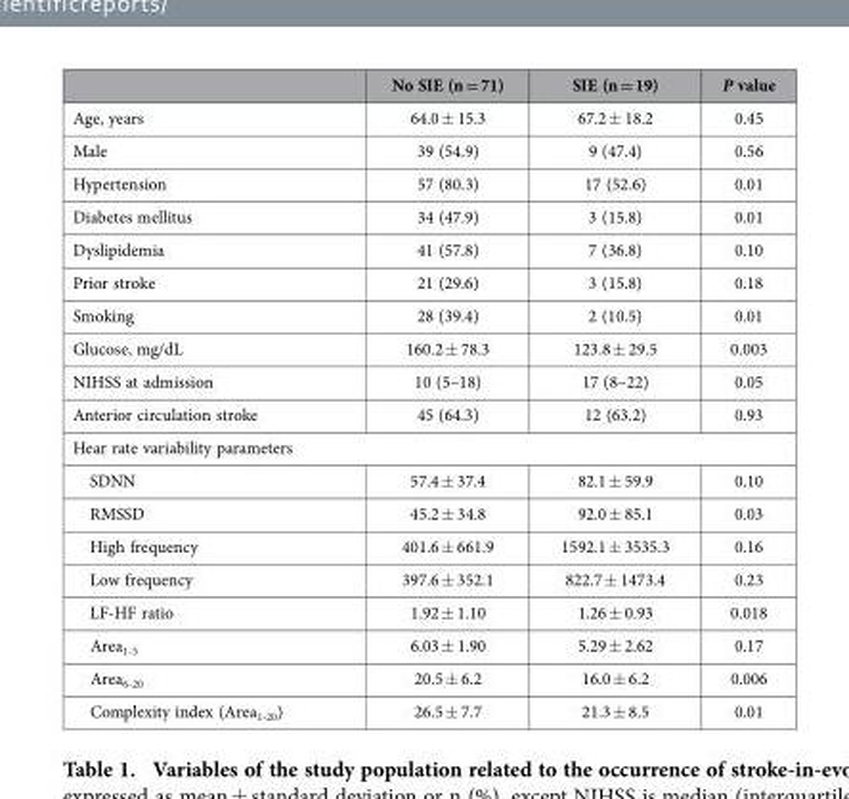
<table><thead><tr><td></td><td>No SIE (n = 71)</td><td>SIE (n = 19)</td><td>P value</td></tr></thead><tbody><tr><td>Age, years</td><td>64.0 ± 15.3</td><td>67.2 ± 18.2</td><td>0.45</td></tr><tr><td>Male</td><td>39 (54.9)</td><td>9 (47.4)</td><td>0.56</td></tr><tr><td>Hypertension</td><td>57 (80.3)</td><td>17 (52.6)</td><td>0.01</td></tr><tr><td>Diabetes mellitus</td><td>34 (47.9)</td><td>3 (15.8)</td><td>0.01</td></tr><tr><td>Dyslipidemia</td><td>41 (57.8)</td><td>7 (36.8)</td><td>0.10</td></tr><tr><td>Prior stroke</td><td>21 (29.6)</td><td>3 (15.8)</td><td>0.18</td></tr><tr><td>Smoking</td><td>28 (39.4)</td><td>2 (10.5)</td><td>0.01</td></tr><tr><td>Glucose, mg/dL</td><td>160.2 ± 78.3</td><td>123.8 ± 29.5</td><td>0.003</td></tr><tr><td>NIHSS at admission</td><td>10 (5–18)</td><td>17 (8–22)</td><td>0.05</td></tr><tr><td>Anterior circulation stroke</td><td>45 (64.3)</td><td>12 (63.2)</td><td>0.93</td></tr><tr><td colspan="4">Hear rate variability parameters</td></tr><tr><td>SDNN</td><td>57.4 ± 37.4</td><td>82.1 ± 59.9</td><td>0.10</td></tr><tr><td>RMSSD</td><td>45.2 ± 34.8</td><td>92.0 ± 85.1</td><td>0.03</td></tr><tr><td>High frequency</td><td>401.6 ± 661.9</td><td>1592.1 ± 3535.3</td><td>0.16</td></tr><tr><td>Low frequency</td><td>397.6 ± 352.1</td><td>822.7 ± 1473.4</td><td>0.23</td></tr><tr><td>LF-HF ratio</td><td>1.92 ± 1.10</td><td>1.26 ± 0.93</td><td>0.018</td></tr><tr><td>Area<sub>1-5</sub></td><td>6.03 ± 1.90</td><td>5.29 ± 2.62</td><td>0.17</td></tr><tr><td>Area<sub>6-20</sub></td><td>20.5 ± 6.2</td><td>16.0 ± 6.2</td><td>0.006</td></tr><tr><td>Complexity index (Area<sub>1-20</sub>)</td><td>26.5 ± 7.7</td><td>21.3 ± 8.5</td><td>0.01</td></tr></tbody></table>